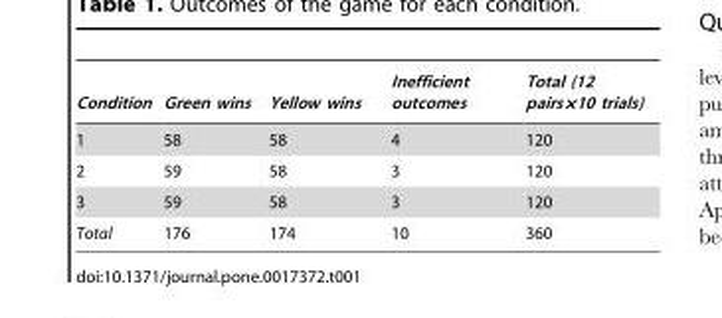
<table><thead><tr><td>Condition</td><td>Green wins</td><td>Yellow wins</td><td>Inefficient outcomes</td><td>Total (12 pairs×10 trials)</td></tr></thead><tbody><tr><td>1</td><td>58</td><td>58</td><td>4</td><td>120</td></tr><tr><td>2</td><td>59</td><td>58</td><td>3</td><td>120</td></tr><tr><td>3</td><td>59</td><td>58</td><td>3</td><td>120</td></tr><tr><td>Total</td><td>176</td><td>174</td><td>10</td><td>360</td></tr></tbody></table>